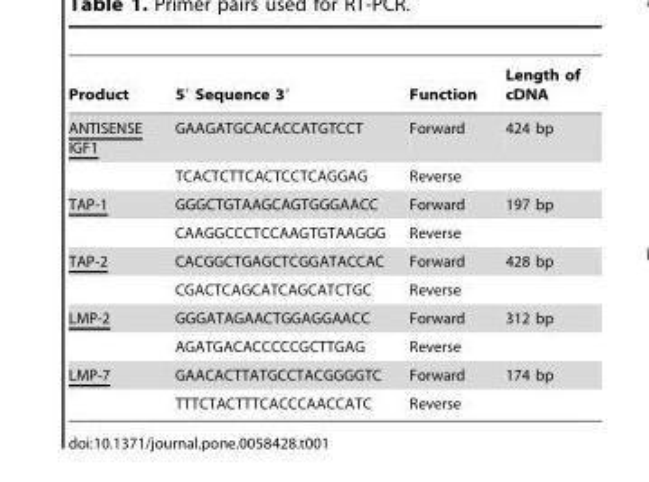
<table><thead><tr><td>Product</td><td>5′ Sequence 3′</td><td>Function</td><td>Length of cDNA</td></tr></thead><tbody><tr><td rowspan="2">ANTISENSE IGF1</td><td>GAAGATGCACACCATGTCCT</td><td>Forward</td><td>424 bp</td></tr><tr><td>TCACTCTTCACTCCTCAGGAG</td><td>Reverse</td><td></td></tr><tr><td rowspan="2">TAP-1</td><td>GGGCTGTAAGCAGTGGGAACC</td><td>Forward</td><td>197 bp</td></tr><tr><td>CAAGGCCCTCCAAGTGTAAGGG</td><td>Reverse</td><td></td></tr><tr><td rowspan="2">TAP-2</td><td>CACGGCTGAGCTCGGATACCAC</td><td>Forward</td><td>428 bp</td></tr><tr><td>CGACTCAGCATCAGCATCTGC</td><td>Reverse</td><td></td></tr><tr><td rowspan="2">LMP-2</td><td>GGGATAGAACTGGAGGAACC</td><td>Forward</td><td>312 bp</td></tr><tr><td>AGATGACACCCCCGCTTGAG</td><td>Reverse</td><td></td></tr><tr><td rowspan="2">LMP-7</td><td>GAACACTTATGCCTACGGGGTC</td><td>Forward</td><td>174 bp</td></tr><tr><td>TTTCTACTTTCACCCAACCATC</td><td>Reverse</td><td></td></tr></tbody></table>